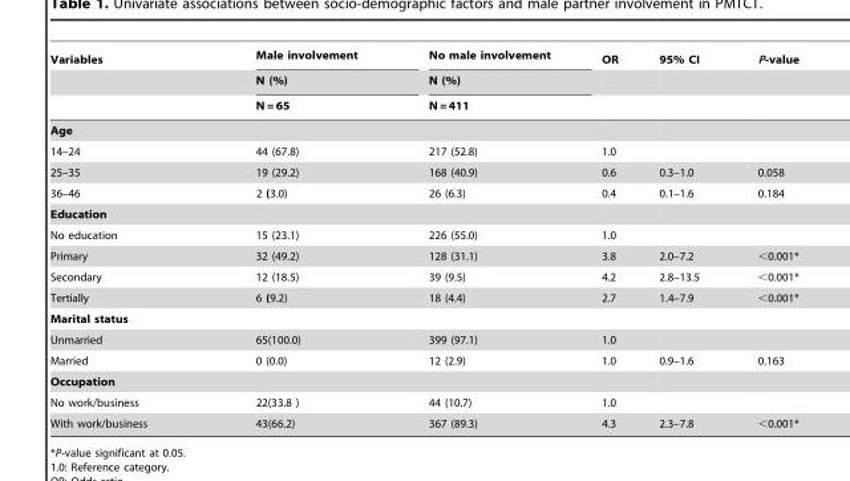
<table><thead><tr><td rowspan="3">Variables</td><td rowspan="3">Male involvement N (%) N = 65</td><td rowspan="3">No male involvement N (%) N = 411</td><td rowspan="3">OR</td><td rowspan="3">95% CI</td><td rowspan="3">P-value</td></tr><tr></tr><tr></tr></thead><tbody><tr><td colspan="6">Age</td></tr><tr><td>14–24</td><td>44 (67.8)</td><td>217 (52.8)</td><td>1.0</td><td></td><td></td></tr><tr><td>25–35</td><td>19 (29.2)</td><td>168 (40.9)</td><td>0.6</td><td>0.3–1.0</td><td>0.058</td></tr><tr><td>36–46</td><td>2 (3.0)</td><td>26 (6.3)</td><td>0.4</td><td>0.1–1.6</td><td>0.184</td></tr><tr><td colspan="6">Education</td></tr><tr><td>No education</td><td>15 (23.1)</td><td>226 (55.0)</td><td>1.0</td><td></td><td></td></tr><tr><td>Primary</td><td>32 (49.2)</td><td>128 (31.1)</td><td>3.8</td><td>2.0–7.2</td><td>&lt;0.001*</td></tr><tr><td>Secondary</td><td>12 (18.5)</td><td>39 (9.5)</td><td>4.2</td><td>2.8–13.5</td><td>&lt;0.001*</td></tr><tr><td>Tertially</td><td>6 (9.2)</td><td>18 (4.4)</td><td>2.7</td><td>1.4–7.9</td><td>&lt;0.001*</td></tr><tr><td colspan="6">Marital status</td></tr><tr><td>Unmarried</td><td>65(100.0)</td><td>399 (97.1)</td><td>1.0</td><td></td><td></td></tr><tr><td>Married</td><td>0 (0.0)</td><td>12 (2.9)</td><td>1.0</td><td>0.9–1.6</td><td>0.163</td></tr><tr><td colspan="6">Occupation</td></tr><tr><td>No work/business</td><td>22(33.8 )</td><td>44 (10.7)</td><td>1.0</td><td></td><td></td></tr><tr><td>With work/business</td><td>43(66.2)</td><td>367 (89.3)</td><td>4.3</td><td>2.3–7.8</td><td>&lt;0.001*</td></tr></tbody></table>